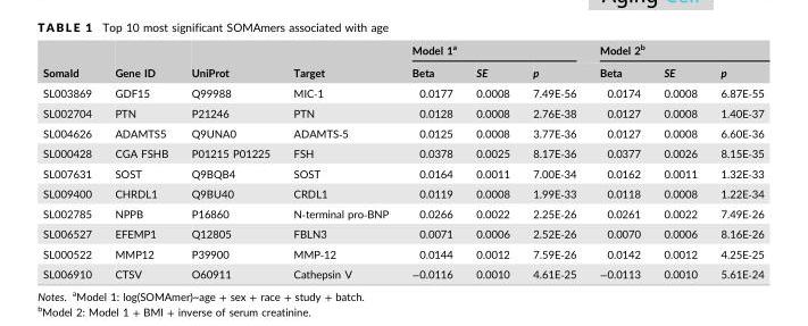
<table><thead><tr><td rowspan="2">SomaId</td><td rowspan="2">Gene ID</td><td rowspan="2">UniProt</td><td rowspan="2">Target</td><td colspan="3">Model 1<sup>a</sup></td><td colspan="3">Model 2<sup>b</sup></td></tr><tr><td>Beta</td><td>SE</td><td>p</td><td>Beta</td><td>SE</td><td>p</td></tr></thead><tbody><tr><td>SL003869</td><td>GDF15</td><td>Q99988</td><td>MIC‐1</td><td>0.0177</td><td>0.0008</td><td>7.49E‐56</td><td>0.0174</td><td>0.0008</td><td>6.87E‐55</td></tr><tr><td>SL002704</td><td>PTN</td><td>P21246</td><td>PTN</td><td>0.0128</td><td>0.0008</td><td>2.76E‐38</td><td>0.0127</td><td>0.0008</td><td>1.40E‐37</td></tr><tr><td>SL004626</td><td>ADAMTS5</td><td>Q9UNA0</td><td>ADAMTS‐5</td><td>0.0125</td><td>0.0008</td><td>3.77E‐36</td><td>0.0127</td><td>0.0008</td><td>6.60E‐36</td></tr><tr><td>SL000428</td><td>CGA FSHB</td><td>P01215 P01225</td><td>FSH</td><td>0.0378</td><td>0.0025</td><td>8.17E‐36</td><td>0.0377</td><td>0.0026</td><td>8.15E‐35</td></tr><tr><td>SL007631</td><td>SOST</td><td>Q9BQB4</td><td>SOST</td><td>0.0164</td><td>0.0011</td><td>7.00E‐34</td><td>0.0162</td><td>0.0011</td><td>1.32E‐33</td></tr><tr><td>SL009400</td><td>CHRDL1</td><td>Q9BU40</td><td>CRDL1</td><td>0.0119</td><td>0.0008</td><td>1.99E‐33</td><td>0.0118</td><td>0.0008</td><td>1.22E‐34</td></tr><tr><td>SL002785</td><td>NPPB</td><td>P16860</td><td>N‐terminal pro‐BNP</td><td>0.0266</td><td>0.0022</td><td>2.25E‐26</td><td>0.0261</td><td>0.0022</td><td>7.49E‐26</td></tr><tr><td>SL006527</td><td>EFEMP1</td><td>Q12805</td><td>FBLN3</td><td>0.0071</td><td>0.0006</td><td>2.52E‐26</td><td>0.0070</td><td>0.0006</td><td>8.16E‐26</td></tr><tr><td>SL000522</td><td>MMP12</td><td>P39900</td><td>MMP‐12</td><td>0.0144</td><td>0.0012</td><td>7.59E‐26</td><td>0.0142</td><td>0.0012</td><td>4.25E‐25</td></tr><tr><td>SL006910</td><td>CTSV</td><td>O60911</td><td>Cathepsin V</td><td>−0.0116</td><td>0.0010</td><td>4.61E‐25</td><td>−0.0113</td><td>0.0010</td><td>5.61E‐24</td></tr></tbody></table>